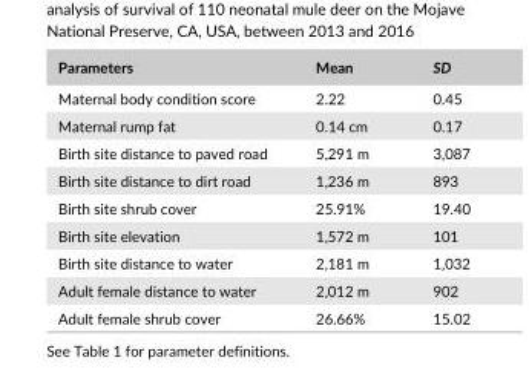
<table><thead><tr><td>Parameters</td><td>Mean</td><td>SD</td></tr></thead><tbody><tr><td>Maternal body condition score</td><td>2.22</td><td>0.45</td></tr><tr><td>Maternal rump fat</td><td>0.14 cm</td><td>0.17</td></tr><tr><td>Birth site distance to paved road</td><td>5,291 m</td><td>3,087</td></tr><tr><td>Birth site distance to dirt road</td><td>1,236 m</td><td>893</td></tr><tr><td>Birth site shrub cover</td><td>25.91%</td><td>19.40</td></tr><tr><td>Birth site elevation</td><td>1,572 m</td><td>101</td></tr><tr><td>Birth site distance to water</td><td>2,181 m</td><td>1,032</td></tr><tr><td>Adult female distance to water</td><td>2,012 m</td><td>902</td></tr><tr><td>Adult female shrub cover</td><td>26.66%</td><td>15.02</td></tr></tbody></table>